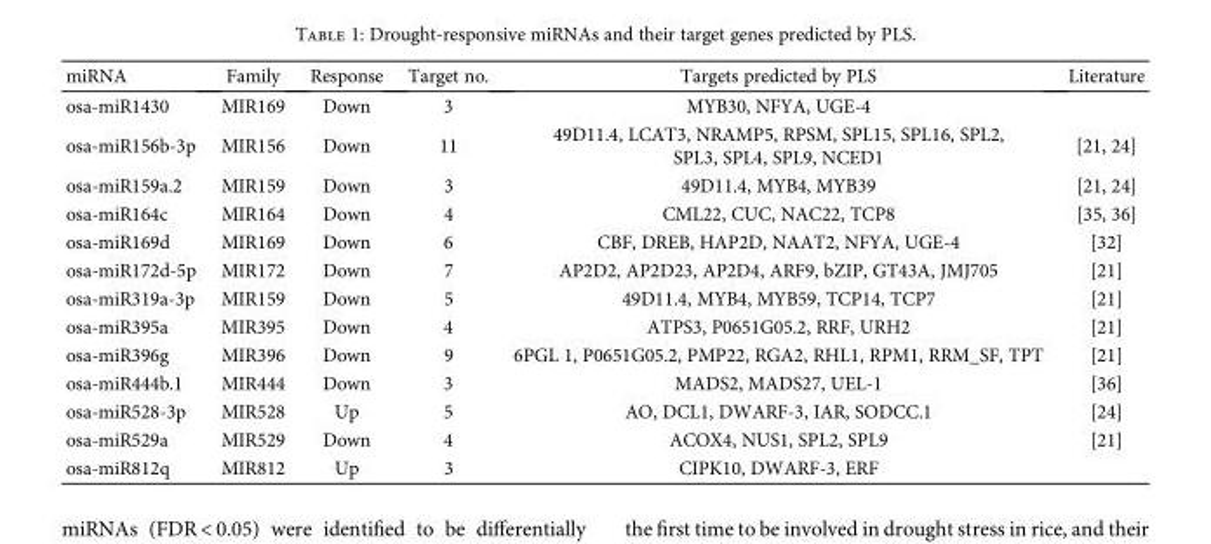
<table><thead><tr><td>miRNA</td><td>Family</td><td>Response</td><td>Target no.</td><td>Targets predicted by PLS</td><td>Literature</td></tr></thead><tbody><tr><td>osa-miR1430</td><td>MIR169</td><td>Down</td><td>3</td><td>MYB30, NFYA, UGE-4</td><td></td></tr><tr><td>osa-miR156b-3p</td><td>MIR156</td><td>Down</td><td>11</td><td>49D11.4, LCAT3, NRAMP5, RPSM, SPL15, SPL16, SPL2, SPL3, SPL4, SPL9, NCED1</td><td>[21, 24]</td></tr><tr><td>osa-miR159a.2</td><td>MIR159</td><td>Down</td><td>3</td><td>49D11.4, MYB4, MYB39</td><td>[21, 24]</td></tr><tr><td>osa-miR164c</td><td>MIR164</td><td>Down</td><td>4</td><td>CML22, CUC, NAC22, TCP8</td><td>[35, 36]</td></tr><tr><td>osa-miR169d</td><td>MIR169</td><td>Down</td><td>6</td><td>CBF, DREB, HAP2D, NAAT2, NFYA, UGE-4</td><td>[32]</td></tr><tr><td>osa-miR172d-5p</td><td>MIR172</td><td>Down</td><td>7</td><td>AP2D2, AP2D23, AP2D4, ARF9, bZIP, GT43A, JMJ705</td><td>[21]</td></tr><tr><td>osa-miR319a-3p</td><td>MIR159</td><td>Down</td><td>5</td><td>49D11.4, MYB4, MYB59, TCP14, TCP7</td><td>[21]</td></tr><tr><td>osa-miR395a</td><td>MIR395</td><td>Down</td><td>4</td><td>ATPS3, P0651G05.2, RRF, URH2</td><td>[21]</td></tr><tr><td>osa-miR396g</td><td>MIR396</td><td>Down</td><td>9</td><td>6PGL 1, P0651G05.2, PMP22, RGA2, RHL1, RPM1, RRM_SF, TPT</td><td>[21]</td></tr><tr><td>osa-miR444b.1</td><td>MIR444</td><td>Down</td><td>3</td><td>MADS2, MADS27, UEL-1</td><td>[36]</td></tr><tr><td>osa-miR528-3p</td><td>MIR528</td><td>Up</td><td>5</td><td>AO, DCL1, DWARF-3, IAR, SODCC.1</td><td>[24]</td></tr><tr><td>osa-miR529a</td><td>MIR529</td><td>Down</td><td>4</td><td>ACOX4, NUS1, SPL2, SPL9</td><td>[21]</td></tr><tr><td>osa-miR812q</td><td>MIR812</td><td>Up</td><td>3</td><td>CIPK10, DWARF-3, ERF</td><td></td></tr></tbody></table>